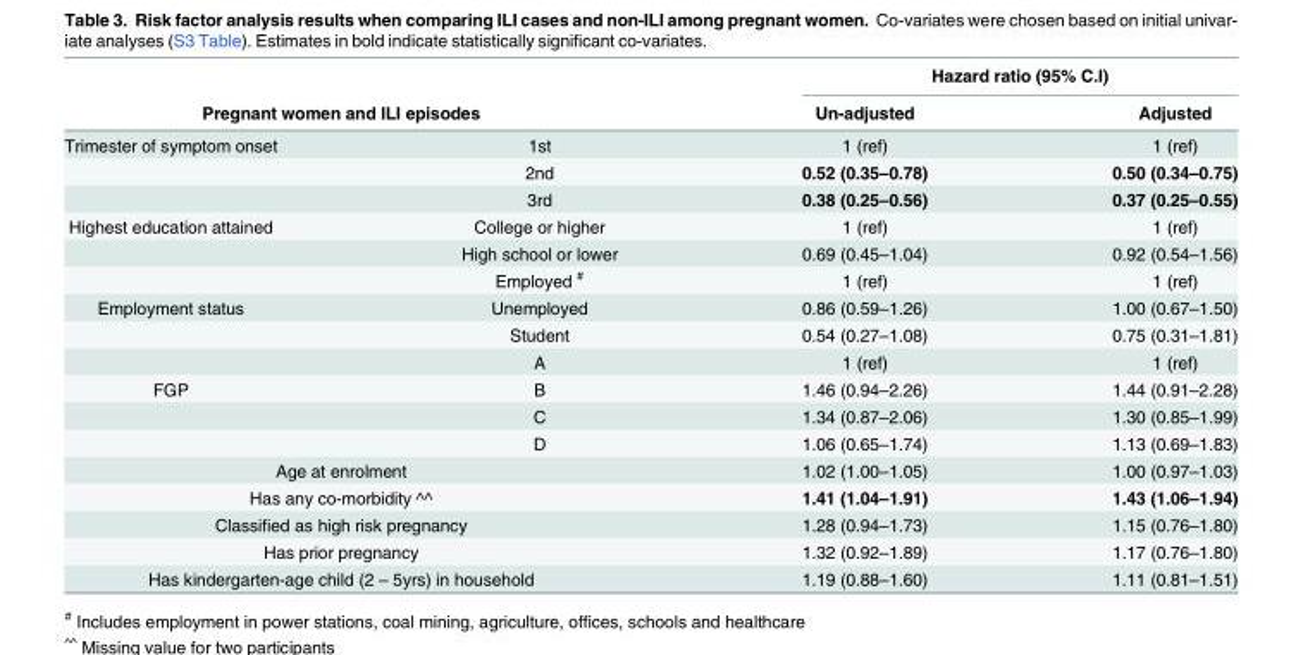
<table><thead><tr><td></td><td></td><td colspan="2">Hazard ratio (95% C.I)</td></tr><tr><td colspan="2">Pregnant women and ILI episodes</td><td>Un-adjusted</td><td>Adjusted</td></tr></thead><tbody><tr><td rowspan="3">Trimester of symptom onset</td><td>1st</td><td>1 (ref)</td><td>1 (ref)</td></tr><tr><td>2nd</td><td>0.52 (0.35–0.78)</td><td>0.50 (0.34–0.75)</td></tr><tr><td>3rd</td><td>0.38 (0.25–0.56)</td><td>0.37 (0.25–0.55)</td></tr><tr><td rowspan="3">Highest education attained</td><td>College or higher</td><td>1 (ref)</td><td>1 (ref)</td></tr><tr><td>High school or lower</td><td>0.69 (0.45–1.04)</td><td>0.92 (0.54–1.56)</td></tr><tr><td>Employed <sup>#</sup></td><td>1 (ref)</td><td>1 (ref)</td></tr><tr><td rowspan="3">Employment status</td><td>Unemployed</td><td>0.86 (0.59–1.26)</td><td>1.00 (0.67–1.50)</td></tr><tr><td>Student</td><td>0.54 (0.27–1.08)</td><td>0.75 (0.31–1.81)</td></tr><tr><td>A</td><td>1 (ref)</td><td>1 (ref)</td></tr><tr><td rowspan="3">FGP</td><td>B</td><td>1.46 (0.94–2.26)</td><td>1.44 (0.91–2.28)</td></tr><tr><td>C</td><td>1.34 (0.87–2.06)</td><td>1.30 (0.85–1.99)</td></tr><tr><td>D</td><td>1.06 (0.65–1.74)</td><td>1.13 (0.69–1.83)</td></tr><tr><td colspan="2">Age at enrolment</td><td>1.02 (1.00–1.05)</td><td>1.00 (0.97–1.03)</td></tr><tr><td colspan="2">Has any co-morbidity ^^</td><td>1.41 (1.04–1.91)</td><td>1.43 (1.06–1.94)</td></tr><tr><td colspan="2">Classified as high risk pregnancy</td><td>1.28 (0.94–1.73)</td><td>1.15 (0.76–1.80)</td></tr><tr><td colspan="2">Has prior pregnancy</td><td>1.32 (0.92–1.89)</td><td>1.17 (0.76–1.80)</td></tr><tr><td colspan="2">Has kindergarten-age child (2 – 5yrs) in household</td><td>1.19 (0.88–1.60)</td><td>1.11 (0.81–1.51)</td></tr></tbody></table>